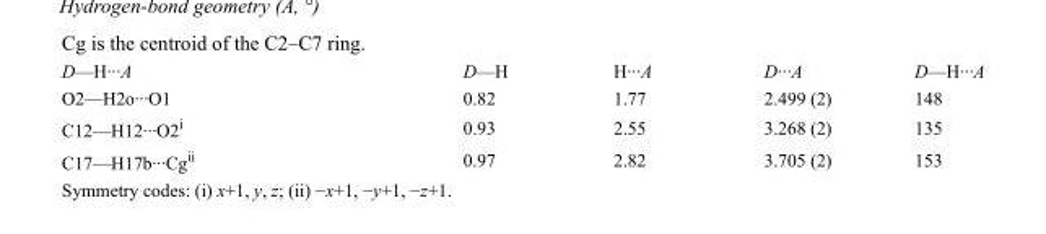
<table><tbody><tr><td>D—H···A</td><td>D—H</td><td>H···A</td><td>D···A</td><td>D—H···A</td></tr><tr><td>O2—H2o···O1</td><td>0.82</td><td>1.77</td><td>2.499 (2)</td><td>148</td></tr><tr><td>C12—H12···O2<sup>i</sup></td><td>0.93</td><td>2.55</td><td>3.268 (2)</td><td>135</td></tr><tr><td>C17—H17b···Cg<sup>ii</sup></td><td>0.97</td><td>2.82</td><td>3.705 (2)</td><td>153</td></tr></tbody></table>